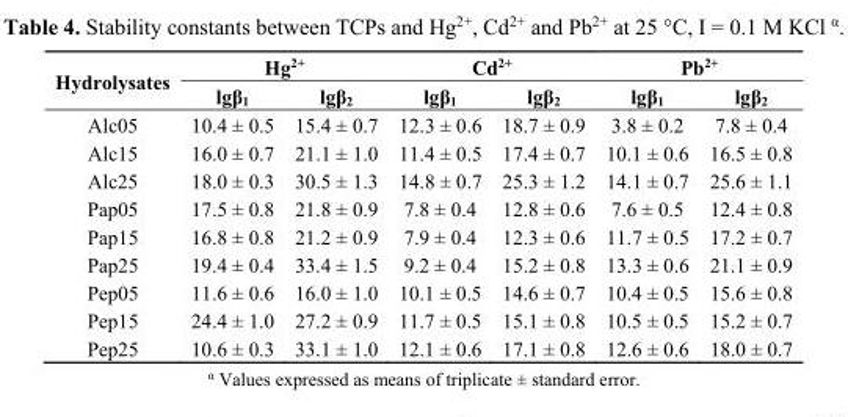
<table><thead><tr><td rowspan="2">Hydrolysates</td><td colspan="2">Hg<sup>2+</sup></td><td colspan="2">Cd<sup>2+</sup></td><td colspan="2">Pb<sup>2+</sup></td></tr><tr><td>lgβ<sub>1</sub></td><td>lgβ<sub>2</sub></td><td>lgβ<sub>1</sub></td><td>lgβ<sub>2</sub></td><td>lgβ<sub>1</sub></td><td>lgβ<sub>2</sub></td></tr></thead><tbody><tr><td>Alc05</td><td>10.4 ± 0.5</td><td>15.4 ± 0.7</td><td>12.3 ± 0.6</td><td>18.7 ± 0.9</td><td>3.8 ± 0.2</td><td>7.8 ± 0.4</td></tr><tr><td>Alc15</td><td>16.0 ± 0.7</td><td>21.1 ± 1.0</td><td>11.4 ± 0.5</td><td>17.4 ± 0.7</td><td>10.1 ± 0.6</td><td>16.5 ± 0.8</td></tr><tr><td>Alc25</td><td>18.0 ± 0.3</td><td>30.5 ± 1.3</td><td>14.8 ± 0.7</td><td>25.3 ± 1.2</td><td>14.1 ± 0.7</td><td>25.6 ± 1.1</td></tr><tr><td>Pap05</td><td>17.5 ± 0.8</td><td>21.8 ± 0.9</td><td>7.8 ± 0.4</td><td>12.8 ± 0.6</td><td>7.6 ± 0.5</td><td>12.4 ± 0.8</td></tr><tr><td>Pap15</td><td>16.8 ± 0.8</td><td>21.2 ± 0.9</td><td>7.9 ± 0.4</td><td>12.3 ± 0.6</td><td>11.7 ± 0.5</td><td>17.2 ± 0.7</td></tr><tr><td>Pap25</td><td>19.4 ± 0.4</td><td>33.4 ± 1.5</td><td>9.2 ± 0.4</td><td>15.2 ± 0.8</td><td>13.3 ± 0.6</td><td>21.1 ± 0.9</td></tr><tr><td>Pep05</td><td>11.6 ± 0.6</td><td>16.0 ± 1.0</td><td>10.1 ± 0.5</td><td>14.6 ± 0.7</td><td>10.4 ± 0.5</td><td>15.6 ± 0.8</td></tr><tr><td>Pep15</td><td>24.4 ± 1.0</td><td>27.2 ± 0.9</td><td>11.7 ± 0.5</td><td>15.1 ± 0.8</td><td>10.5 ± 0.5</td><td>15.2 ± 0.7</td></tr><tr><td>Pep25</td><td>10.6 ± 0.3</td><td>33.1 ± 1.0</td><td>12.1 ± 0.6</td><td>17.1 ± 0.8</td><td>12.6 ± 0.6</td><td>18.0 ± 0.7</td></tr></tbody></table>